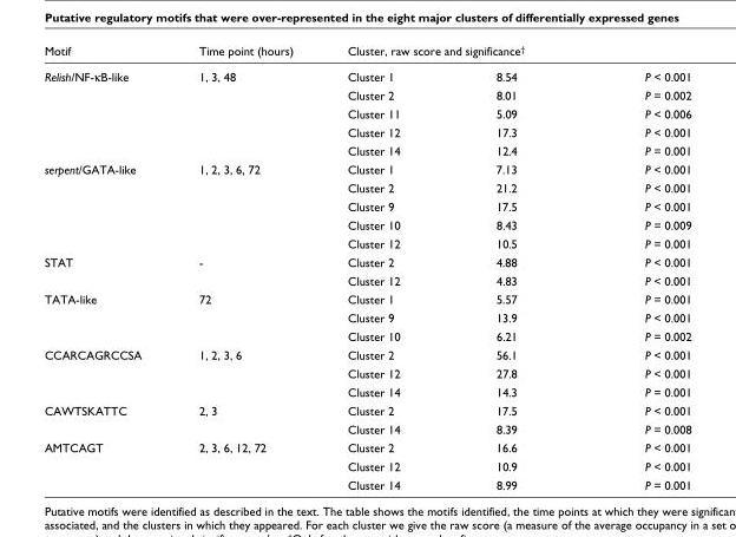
<table><thead><tr><td rowspan="2">Motif Relish/NF-κB-like</td><td rowspan="2">Time point (hours) 1, 3, 48</td><td colspan="3">Cluster, raw score and significance†</td></tr><tr><td>Cluster 1</td><td>8.54</td><td>P &lt; 0.001</td></tr></thead><tbody><tr><td></td><td></td><td>Cluster 2</td><td>8.01</td><td>P = 0.002</td></tr><tr><td></td><td></td><td>Cluster 11</td><td>5.09</td><td>P &lt; 0.006</td></tr><tr><td></td><td></td><td>Cluster 12</td><td>17.3</td><td>P &lt; 0.001</td></tr><tr><td></td><td></td><td>Cluster 14</td><td>12.4</td><td>P = 0.001</td></tr><tr><td rowspan="5">serpent/GATA-like</td><td>1, 2, 3, 6, 72</td><td>Cluster 1</td><td>7.13</td><td>P &lt; 0.001</td></tr><tr><td></td><td>Cluster 2</td><td>21.2</td><td>P &lt; 0.001</td></tr><tr><td></td><td>Cluster 9</td><td>17.5</td><td>P &lt; 0.001</td></tr><tr><td></td><td>Cluster 10</td><td>8.43</td><td>P = 0.009</td></tr><tr><td></td><td>Cluster 12</td><td>10.5</td><td>P = 0.001</td></tr><tr><td rowspan="2">STAT</td><td>-</td><td>Cluster 2</td><td>4.88</td><td>P &lt; 0.001</td></tr><tr><td></td><td>Cluster 12</td><td>4.83</td><td>P &lt; 0.001</td></tr><tr><td rowspan="3">TATA-like</td><td>72</td><td>Cluster 1</td><td>5.57</td><td>P = 0.001</td></tr><tr><td></td><td>Cluster 9</td><td>13.9</td><td>P &lt; 0.001</td></tr><tr><td></td><td>Cluster 10</td><td>6.21</td><td>P = 0.002</td></tr><tr><td rowspan="3">CCARCAGRCCSA</td><td>1, 2, 3, 6</td><td>Cluster 2</td><td>56.1</td><td>P &lt; 0.001</td></tr><tr><td></td><td>Cluster 12</td><td>27.8</td><td>P &lt; 0.001</td></tr><tr><td></td><td>Cluster 14</td><td>14.3</td><td>P = 0.001</td></tr><tr><td rowspan="2">CAWTSKATTC</td><td>2, 3</td><td>Cluster 2</td><td>17.5</td><td>P &lt; 0.001</td></tr><tr><td></td><td>Cluster 14</td><td>8.39</td><td>P = 0.008</td></tr><tr><td rowspan="3">AMTCAGT</td><td>2, 3, 6, 12, 72</td><td>Cluster 2</td><td>16.6</td><td>P &lt; 0.001</td></tr><tr><td></td><td>Cluster 12</td><td>10.9</td><td>P &lt; 0.001</td></tr><tr><td></td><td>Cluster 14</td><td>8.99</td><td>P = 0.001</td></tr></tbody></table>